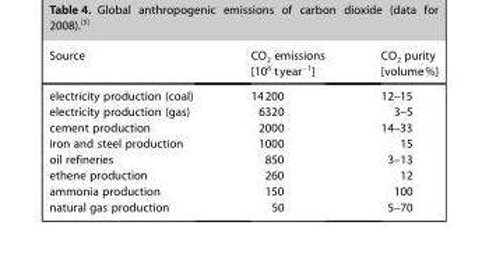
<table><thead><tr><td>Source</td><td>CO<sub>2</sub> emissions [10<sup>6</sup> tyear<sup>−1</sup>]</td><td>CO<sub>2</sub> purity [volume%]</td></tr></thead><tbody><tr><td>electricity production (coal)</td><td>14200</td><td>12–15</td></tr><tr><td>electricity production (gas)</td><td>6320</td><td>3–5</td></tr><tr><td>cement production</td><td>2000</td><td>14–33</td></tr><tr><td>iron and steel production</td><td>1000</td><td>15</td></tr><tr><td>oil refineries</td><td>850</td><td>3–13</td></tr><tr><td>ethene production</td><td>260</td><td>12</td></tr><tr><td>ammonia production</td><td>150</td><td>100</td></tr><tr><td>natural gas production</td><td>50</td><td>5–70</td></tr></tbody></table>